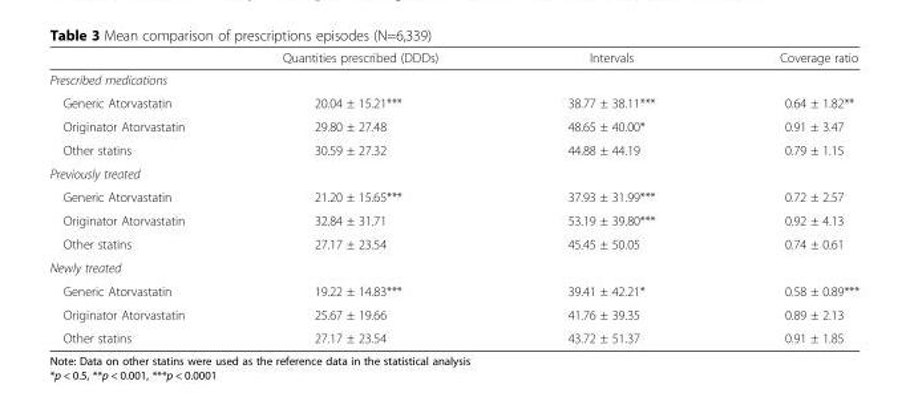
<table><thead><tr><td></td><td>Quantities prescribed (DDDs)</td><td>Intervals</td><td>Coverage ratio</td></tr></thead><tbody><tr><td colspan="4">Prescribed medications</td></tr><tr><td>Generic Atorvastatin</td><td>20.04 ± 15.21***</td><td>38.77 ± 38.11***</td><td>0.64 ± 1.82**</td></tr><tr><td>Originator Atorvastatin</td><td>29.80 ± 27.48</td><td>48.65 ± 40.00*</td><td>0.91 ± 3.47</td></tr><tr><td>Other statins</td><td>30.59 ± 27.32</td><td>44.88 ± 44.19</td><td>0.79 ± 1.15</td></tr><tr><td colspan="4">Previously treated</td></tr><tr><td>Generic Atorvastatin</td><td>21.20 ± 15.65***</td><td>37.93 ± 31.99***</td><td>0.72 ± 2.57</td></tr><tr><td>Originator Atorvastatin</td><td>32.84 ± 31.71</td><td>53.19 ± 39.80***</td><td>0.92 ± 4.13</td></tr><tr><td>Other statins</td><td>27.17 ± 23.54</td><td>45.45 ± 50.05</td><td>0.74 ± 0.61</td></tr><tr><td colspan="4">Newly treated</td></tr><tr><td>Generic Atorvastatin</td><td>19.22 ± 14.83***</td><td>39.41 ± 42.21*</td><td>0.58 ± 0.89***</td></tr><tr><td>Originator Atorvastatin</td><td>25.67 ± 19.66</td><td>41.76 ± 39.35</td><td>0.89 ± 2.13</td></tr><tr><td>Other statins</td><td>27.17 ± 23.54</td><td>43.72 ± 51.37</td><td>0.91 ± 1.85</td></tr></tbody></table>